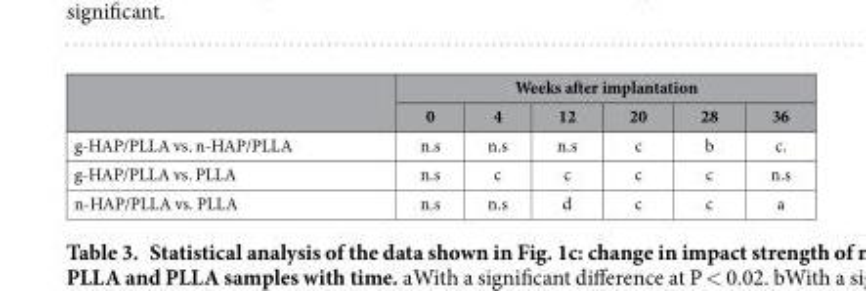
<table><thead><tr><td rowspan="2"></td><td colspan="6">Weeks after implantation</td></tr><tr><td>0</td><td>4</td><td>12</td><td>20</td><td>28</td><td>36</td></tr></thead><tbody><tr><td>g-HAP/PLLA vs. n-HAP/PLLA</td><td>n.s</td><td>n.s</td><td>n.s</td><td>c</td><td>b</td><td>c.</td></tr><tr><td>g-HAP/PLLA vs. PLLA</td><td>n.s</td><td>c</td><td>c</td><td>c</td><td>c</td><td>n.s</td></tr><tr><td>n-HAP/PLLA vs. PLLA</td><td>n.s</td><td>n.s</td><td>d</td><td>c</td><td>c</td><td>a</td></tr></tbody></table>